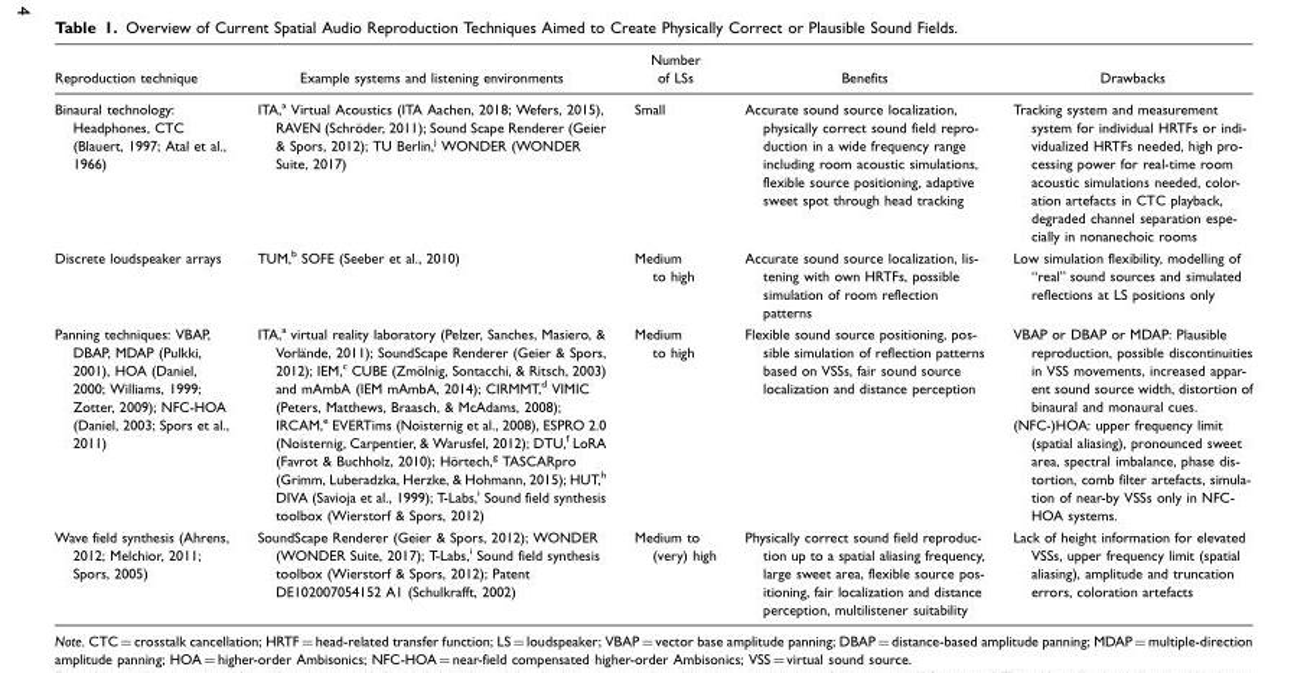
<table><thead><tr><td>Reproduction technique</td><td>Example systems and listening environments</td><td>Number of LSs</td><td>Benefits</td><td>Drawbacks</td></tr></thead><tbody><tr><td>Binaural technology: Headphones, CTC (Blauert, 1997; Atal et al., 1966)</td><td>ITA,a Virtual Acoustics (ITA Aachen, 2018; Wefers, 2015), RAVEN (Schro¨der, 2011); Sound Scape Renderer (Geier &amp; Spors, 2012); TU Berlin,j WONDER (WONDER Suite, 2017)</td><td>Small</td><td>Accurate sound source localization, physically correct sound field repro- duction in a wide frequency range including room acoustic simulations, flexible source positioning, adaptive sweet spot through head tracking</td><td>Tracking system and measurement system for individual HRTFs or indi- vidualized HRTFs needed, high pro- cessing power for real-time room acoustic simulations needed, color- ation artefacts in CTC playback, degraded channel separation espe- cially in nonanechoic rooms</td></tr><tr><td>Discrete loudspeaker arrays</td><td>TUM,<sup>b</sup> SOFE (Seeber et al., 2010)</td><td>Medium to high</td><td>Accurate sound source localization, lis- tening with own HRTFs, possible simulation of room reflection patterns</td><td>Low simulation flexibility, modelling of ‘‘real’’ sound sources and simulated reflections at LS positions only</td></tr><tr><td>Panning techniques: VBAP, DBAP, MDAP (Pulkki, 2001), HOA (Daniel, 2000; Williams, 1999; Zotter, 2009); NFC-HOA (Daniel, 2003; Spors et al., 2011)</td><td>ITA,a virtual reality laboratory (Pelzer, Sanches, Masiero, &amp; Vorla¨nde, 2011); SoundScape Renderer (Geier &amp; Spors, 2012); IEM,c CUBE (Zmo¨lnig, Sontacchi, &amp; Ritsch, 2003) and mAmbA (IEM mAmbA, 2014); CIRMMT,d VIMIC (Peters, Matthews, Braasch, &amp; McAdams, 2008); IRCAM,e EVERTims (Noisternig et al., 2008), ESPRO 2.0 (Noisternig, Carpentier, &amp; Warusfel, 2012); DTU,f LoRA (Favrot &amp; Buchholz, 2010); Ho¨rtech,g TASCARpro (Grimm, Luberadzka, Herzke, &amp; Hohmann, 2015); HUT,h DIVA (Savioja et al., 1999); T-Labs,i Sound field synthesis toolbox (Wierstorf &amp; Spors, 2012)</td><td>Medium to high</td><td>Flexible sound source positioning, pos- sible simulation of reflection patterns based on VSSs, fair sound source localization and distance perception</td><td>VBAP or DBAP or MDAP: Plausible reproduction, possible discontinuities in VSS movements, increased appar- ent sound source width, distortion of binaural and monaural cues. (NFC-)HOA: upper frequency limit (spatial aliasing), pronounced sweet area, spectral imbalance, phase dis- tortion, comb filter artefacts, simula- tion of near-by VSSs only in NFC- HOA systems.</td></tr><tr><td>Wave field synthesis (Ahrens, 2012; Melchior, 2011; Spors, 2005)</td><td>SoundScape Renderer (Geier &amp; Spors, 2012); WONDER (WONDER Suite, 2017); T-Labs,<sup>i</sup> Sound field synthesis toolbox (Wierstorf &amp; Spors, 2012); Patent DE102007054152 A1 (Schulkrafft, 2002)</td><td>Medium to (very) high</td><td>Physically correct sound field reproduc- tion up to a spatial aliasing frequency, large sweet area, flexible source pos- itioning, fair localization and distance perception, multilistener suitability</td><td>Lack of height information for elevated VSSs, upper frequency limit (spatial aliasing), amplitude and truncation errors, coloration artefacts</td></tr></tbody></table>